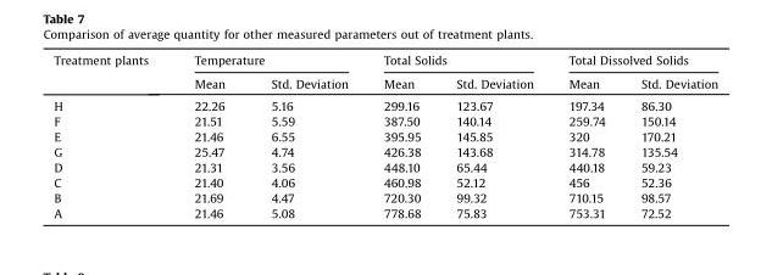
<table><thead><tr><td rowspan="2">Treatment plants</td><td colspan="2">Temperature</td><td colspan="2">Total Solids</td><td colspan="2">Total Dissolved Solids</td></tr><tr><td>Mean</td><td>Std. Deviation</td><td>Mean</td><td>Std. Deviation</td><td>Mean</td><td>Std. Deviation</td></tr></thead><tbody><tr><td>H</td><td>22.26</td><td>5.16</td><td>299.16</td><td>123.67</td><td>197.34</td><td>86.30</td></tr><tr><td>F</td><td>21.51</td><td>5.59</td><td>387.50</td><td>140.14</td><td>259.74</td><td>150.14</td></tr><tr><td>E</td><td>21.46</td><td>6.55</td><td>395.95</td><td>145.85</td><td>320</td><td>170.21</td></tr><tr><td>G</td><td>25.47</td><td>4.74</td><td>426.38</td><td>143.68</td><td>314.78</td><td>135.54</td></tr><tr><td>D</td><td>21.31</td><td>3.56</td><td>448.10</td><td>65.44</td><td>440.18</td><td>59.23</td></tr><tr><td>C</td><td>21.40</td><td>4.06</td><td>460.98</td><td>52.12</td><td>456</td><td>52.36</td></tr><tr><td>B</td><td>21.69</td><td>4.47</td><td>720.30</td><td>99.32</td><td>710.15</td><td>98.57</td></tr><tr><td>A</td><td>21.46</td><td>5.08</td><td>778.68</td><td>75.83</td><td>753.31</td><td>72.52</td></tr></tbody></table>